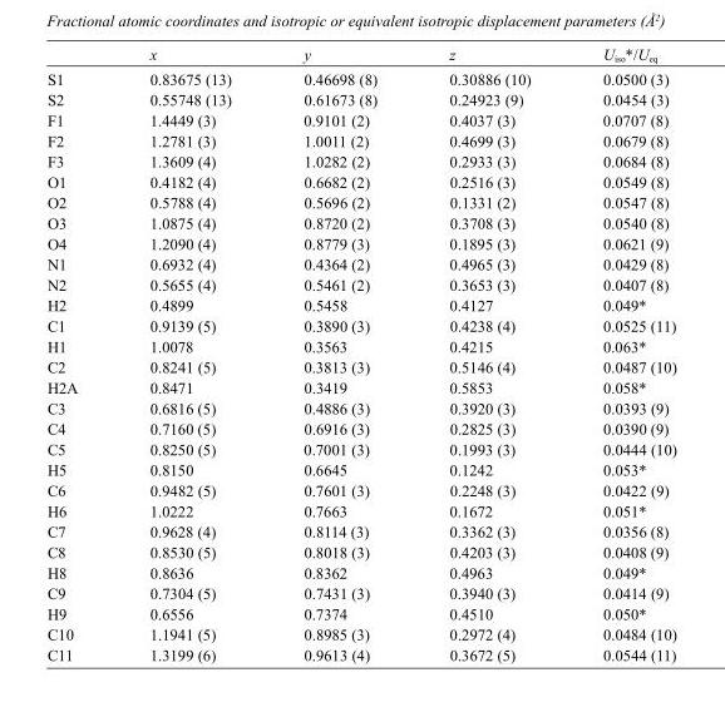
<table><thead><tr><td></td><td>x</td><td>y</td><td>z</td><td>U<sub>iso</sub>*/U<sub>eq</sub></td></tr></thead><tbody><tr><td>S1</td><td>0.83675 (13)</td><td>0.46698 (8)</td><td>0.30886 (10)</td><td>0.0500 (3)</td></tr><tr><td>S2</td><td>0.55748 (13)</td><td>0.61673 (8)</td><td>0.24923 (9)</td><td>0.0454 (3)</td></tr><tr><td>F1</td><td>1.4449 (3)</td><td>0.9101 (2)</td><td>0.4037 (3)</td><td>0.0707 (8)</td></tr><tr><td>F2</td><td>1.2781 (3)</td><td>1.0011 (2)</td><td>0.4699 (3)</td><td>0.0679 (8)</td></tr><tr><td>F3</td><td>1.3609 (4)</td><td>1.0282 (2)</td><td>0.2933 (3)</td><td>0.0684 (8)</td></tr><tr><td>O1</td><td>0.4182 (4)</td><td>0.6682 (2)</td><td>0.2516 (3)</td><td>0.0549 (8)</td></tr><tr><td>O2</td><td>0.5788 (4)</td><td>0.5696 (2)</td><td>0.1331 (2)</td><td>0.0547 (8)</td></tr><tr><td>O3</td><td>1.0875 (4)</td><td>0.8720 (2)</td><td>0.3708 (3)</td><td>0.0540 (8)</td></tr><tr><td>O4</td><td>1.2090 (4)</td><td>0.8779 (3)</td><td>0.1895 (3)</td><td>0.0621 (9)</td></tr><tr><td>N1</td><td>0.6932 (4)</td><td>0.4364 (2)</td><td>0.4965 (3)</td><td>0.0429 (8)</td></tr><tr><td>N2</td><td>0.5655 (4)</td><td>0.5461 (2)</td><td>0.3653 (3)</td><td>0.0407 (8)</td></tr><tr><td>H2</td><td>0.4899</td><td>0.5458</td><td>0.4127</td><td>0.049*</td></tr><tr><td>C1</td><td>0.9139 (5)</td><td>0.3890 (3)</td><td>0.4238 (4)</td><td>0.0525 (11)</td></tr><tr><td>H1</td><td>1.0078</td><td>0.3563</td><td>0.4215</td><td>0.063*</td></tr><tr><td>C2</td><td>0.8241 (5)</td><td>0.3813 (3)</td><td>0.5146 (4)</td><td>0.0487 (10)</td></tr><tr><td>H2A</td><td>0.8471</td><td>0.3419</td><td>0.5853</td><td>0.058*</td></tr><tr><td>C3</td><td>0.6816 (5)</td><td>0.4886 (3)</td><td>0.3920 (3)</td><td>0.0393 (9)</td></tr><tr><td>C4</td><td>0.7160 (5)</td><td>0.6916 (3)</td><td>0.2825 (3)</td><td>0.0390 (9)</td></tr><tr><td>C5</td><td>0.8250 (5)</td><td>0.7001 (3)</td><td>0.1993 (3)</td><td>0.0444 (10)</td></tr><tr><td>H5</td><td>0.8150</td><td>0.6645</td><td>0.1242</td><td>0.053*</td></tr><tr><td>C6</td><td>0.9482 (5)</td><td>0.7601 (3)</td><td>0.2248 (3)</td><td>0.0422 (9)</td></tr><tr><td>H6</td><td>1.0222</td><td>0.7663</td><td>0.1672</td><td>0.051*</td></tr><tr><td>C7</td><td>0.9628 (4)</td><td>0.8114 (3)</td><td>0.3362 (3)</td><td>0.0356 (8)</td></tr><tr><td>C8</td><td>0.8530 (5)</td><td>0.8018 (3)</td><td>0.4203 (3)</td><td>0.0408 (9)</td></tr><tr><td>H8</td><td>0.8636</td><td>0.8362</td><td>0.4963</td><td>0.049*</td></tr><tr><td>C9</td><td>0.7304 (5)</td><td>0.7431 (3)</td><td>0.3940 (3)</td><td>0.0414 (9)</td></tr><tr><td>H9</td><td>0.6556</td><td>0.7374</td><td>0.4510</td><td>0.050*</td></tr><tr><td>C10</td><td>1.1941 (5)</td><td>0.8985 (3)</td><td>0.2972 (4)</td><td>0.0484 (10)</td></tr><tr><td>C11</td><td>1.3199 (6)</td><td>0.9613 (4)</td><td>0.3672 (5)</td><td>0.0544 (11)</td></tr></tbody></table>